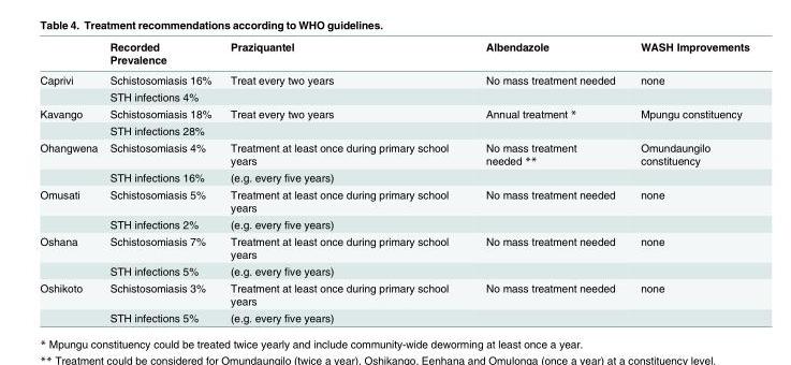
<table><thead><tr><td></td><td>Recorded Prevalence</td><td>Praziquantel</td><td>Albendazole</td><td>WASH Improvements</td></tr></thead><tbody><tr><td rowspan="2">Caprivi</td><td>Schistosomiasis 16%</td><td>Treat every two years</td><td>No mass treatment needed</td><td>none</td></tr><tr><td>STH infections 4%</td><td></td><td></td><td></td></tr><tr><td rowspan="2">Kavango</td><td>Schistosomiasis 18%</td><td>Treat every two years</td><td>Annual treatment *</td><td>Mpungu constituency</td></tr><tr><td>STH infections 28%</td><td></td><td></td><td></td></tr><tr><td rowspan="2">Ohangwena</td><td>Schistosomiasis 4%</td><td>Treatment at least once during primary school years</td><td>No mass treatment needed **</td><td>Omundaungilo constituency</td></tr><tr><td>STH infections 16%</td><td>(e.g. every five years)</td><td></td><td></td></tr><tr><td rowspan="2">Omusati</td><td>Schistosomiasis 5%</td><td>Treatment at least once during primary school years</td><td>No mass treatment needed</td><td>none</td></tr><tr><td>STH infections 2%</td><td>(e.g. every five years)</td><td></td><td></td></tr><tr><td rowspan="2">Oshana</td><td>Schistosomiasis 7%</td><td>Treatment at least once during primary school years</td><td>No mass treatment needed</td><td>none</td></tr><tr><td>STH infections 5%</td><td>(e.g. every five years)</td><td></td><td></td></tr><tr><td rowspan="2">Oshikoto</td><td>Schistosomiasis 3%</td><td>Treatment at least once during primary school years</td><td>No mass treatment needed</td><td>none</td></tr><tr><td>STH infections 5%</td><td>(e.g. every five years)</td><td></td><td></td></tr></tbody></table>